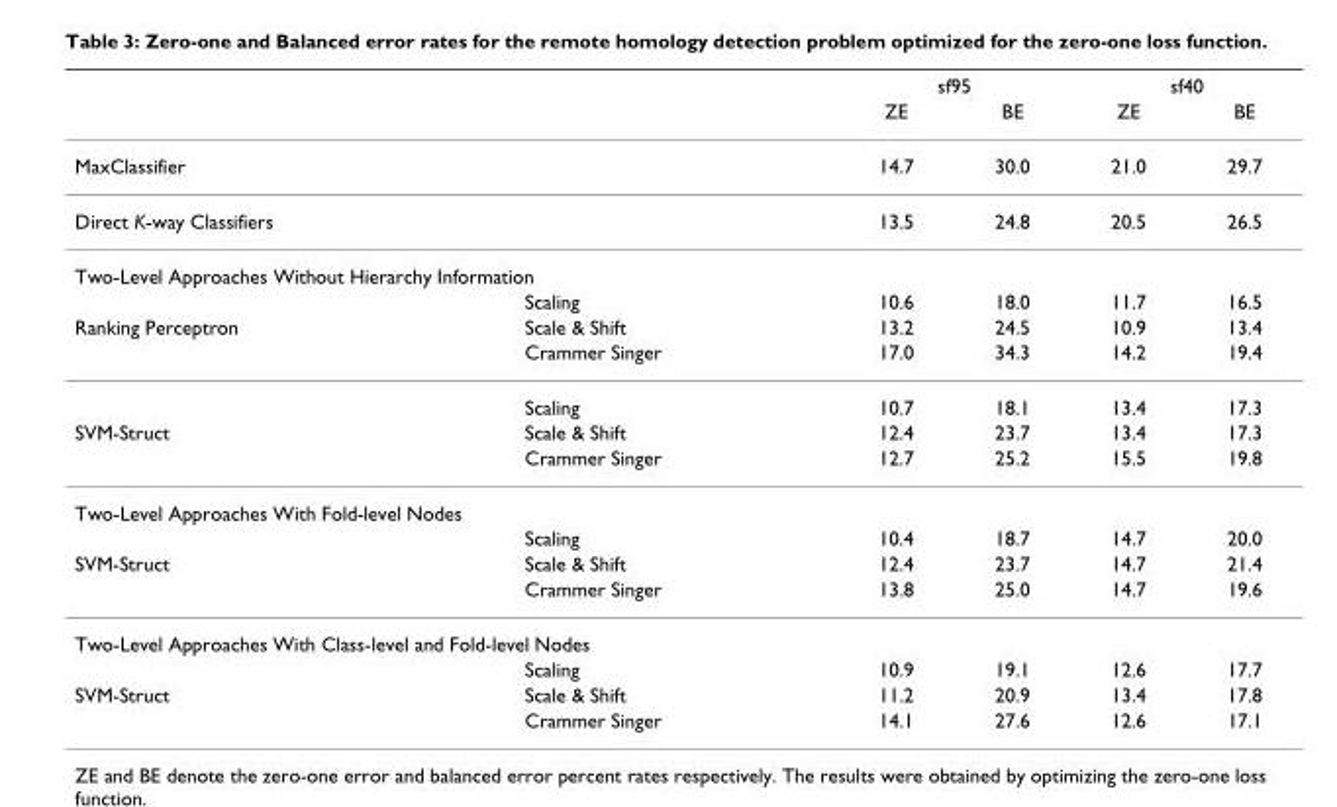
<table><thead><tr><td rowspan="2"></td><td rowspan="2"></td><td colspan="2">sf95</td><td colspan="2">sf40</td></tr><tr><td>ZE</td><td>BE</td><td>ZE</td><td>BE</td></tr></thead><tbody><tr><td>MaxClassifier</td><td></td><td>14.7</td><td>30.0</td><td>21.0</td><td>29.7</td></tr><tr><td>Direct K-way Classifiers</td><td></td><td>13.5</td><td>24.8</td><td>20.5</td><td>26.5</td></tr><tr><td colspan="6">Two-Level Approaches Without Hierarchy Information</td></tr><tr><td></td><td>Scaling</td><td>10.6</td><td>18.0</td><td>11.7</td><td>16.5</td></tr><tr><td rowspan="3">Ranking Perceptron</td><td>Scale &amp; Shift</td><td>13.2</td><td>24.5</td><td>10.9</td><td>13.4</td></tr><tr><td>Crammer Singer</td><td>17.0</td><td>34.3</td><td>14.2</td><td>19.4</td></tr><tr><td>Scaling</td><td>10.7</td><td>18.1</td><td>13.4</td><td>17.3</td></tr><tr><td rowspan="2">SVM-Struct</td><td>Scale &amp; Shift</td><td>12.4</td><td>23.7</td><td>13.4</td><td>17.3</td></tr><tr><td>Crammer Singer</td><td>12.7</td><td>25.2</td><td>15.5</td><td>19.8</td></tr><tr><td colspan="6">Two-Level Approaches With Fold-level Nodes</td></tr><tr><td></td><td>Scaling</td><td>10.4</td><td>18.7</td><td>14.7</td><td>20.0</td></tr><tr><td rowspan="2">SVM-Struct</td><td>Scale &amp; Shift</td><td>12.4</td><td>23.7</td><td>14.7</td><td>21.4</td></tr><tr><td>Crammer Singer</td><td>13.8</td><td>25.0</td><td>14.7</td><td>19.6</td></tr><tr><td colspan="6">Two-Level Approaches With Class-level and Fold-level Nodes</td></tr><tr><td></td><td>Scaling</td><td>10.9</td><td>19.1</td><td>12.6</td><td>17.7</td></tr><tr><td rowspan="2">SVM-Struct</td><td>Scale &amp; Shift</td><td>11.2</td><td>20.9</td><td>13.4</td><td>17.8</td></tr><tr><td>Crammer Singer</td><td>14.1</td><td>27.6</td><td>12.6</td><td>17.1</td></tr></tbody></table>